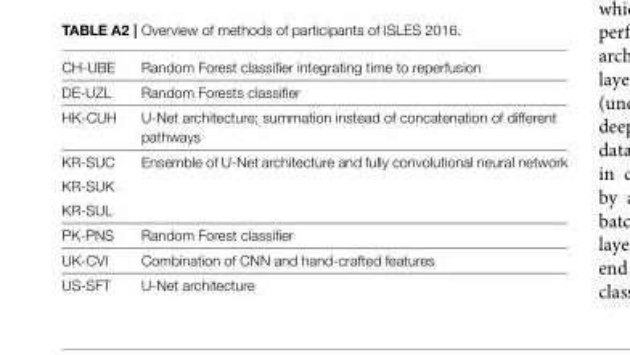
<table><tbody><tr><td>CH-UBE</td><td>Random Forest classifier integrating time to reperfusion</td></tr><tr><td>DE-UZL</td><td>Random Forests classifier</td></tr><tr><td>HK-CUH</td><td>U-Net architecture; summation instead of concatenation of different pathways</td></tr><tr><td>KR-SUC</td><td>Ensemble of U-Net architecture and fully convolutional neural network</td></tr><tr><td colspan="2">KR-SUK</td></tr><tr><td colspan="2">KR-SUL</td></tr><tr><td>PK-PNS</td><td>Random Forest classifier</td></tr><tr><td>UK-CVI</td><td>Combination of CNN and hand-crafted features</td></tr><tr><td>US-SFT</td><td>U-Net architecture</td></tr></tbody></table>